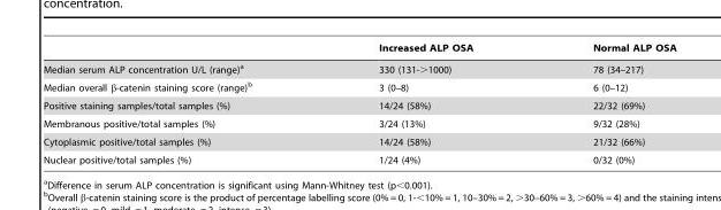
<table><thead><tr><td></td><td>Increased ALP OSA</td><td>Normal ALP OSA</td></tr></thead><tbody><tr><td>Median serum ALP concentration U/L (range)<sup>a</sup></td><td>330 (131-&gt;1000)</td><td>78 (34–217)</td></tr><tr><td>Median overall β-catenin staining score (range)<sup>b</sup></td><td>3 (0–8)</td><td>6 (0–12)</td></tr><tr><td>Positive staining samples/total samples (%)</td><td>14/24 (58%)</td><td>22/32 (69%)</td></tr><tr><td>Membranous positive/total samples (%)</td><td>3/24 (13%)</td><td>9/32 (28%)</td></tr><tr><td>Cytoplasmic positive/total samples (%)</td><td>14/24 (58%)</td><td>21/32 (66%)</td></tr><tr><td>Nuclear positive/total samples (%)</td><td>1/24 (4%)</td><td>0/32 (0%)</td></tr></tbody></table>